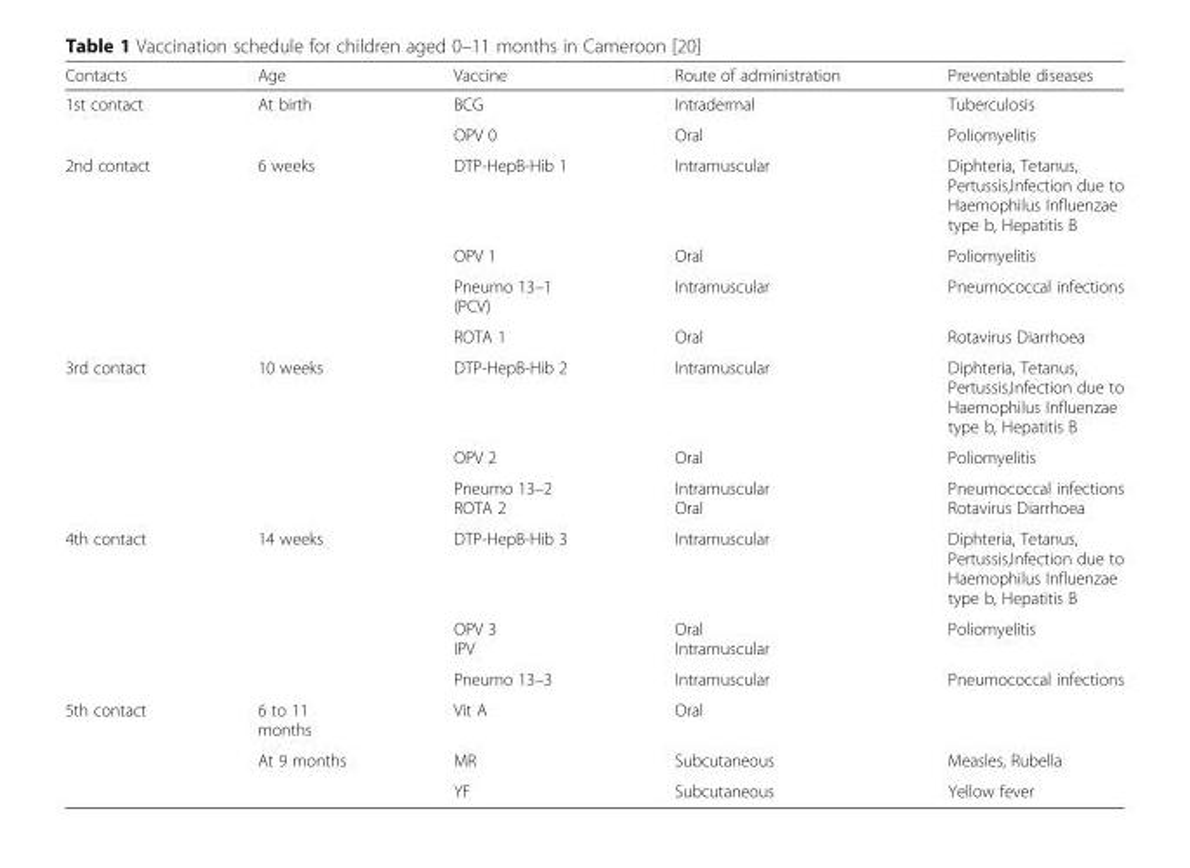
<table><thead><tr><td>Contacts</td><td>Age</td><td>Vaccine</td><td>Route of administration</td><td>Preventable diseases</td></tr></thead><tbody><tr><td rowspan="2">1st contact</td><td rowspan="2">At birth</td><td>BCG</td><td>Intradermal</td><td>Tuberculosis</td></tr><tr><td>OPV 0</td><td>Oral</td><td>Poliomyelitis</td></tr><tr><td rowspan="4">2nd contact</td><td rowspan="4">6 weeks</td><td>DTP-HepB-Hib 1</td><td>Intramuscular</td><td>Diphteria, Tetanus, Pertussis,Infection due to Haemophilus Influenzae type b, Hepatitis B</td></tr><tr><td>OPV 1</td><td>Oral</td><td>Poliomyelitis</td></tr><tr><td>Pneumo 13–1 (PCV)</td><td>Intramuscular</td><td>Pneumococcal infections</td></tr><tr><td>ROTA 1</td><td>Oral</td><td>Rotavirus Diarrhoea</td></tr><tr><td rowspan="3">3rd contact</td><td rowspan="3">10 weeks</td><td>DTP-HepB-Hib 2</td><td>Intramuscular</td><td>Diphteria, Tetanus, Pertussis,Infection due to Haemophilus Influenzae type b, Hepatitis B</td></tr><tr><td>OPV 2</td><td>Oral</td><td>Poliomyelitis</td></tr><tr><td>Pneumo 13–2 ROTA 2</td><td>Intramuscular Oral</td><td>Pneumococcal infections Rotavirus Diarrhoea</td></tr><tr><td rowspan="3">4th contact</td><td rowspan="3">14 weeks</td><td>DTP-HepB-Hib 3</td><td>Intramuscular</td><td>Diphteria, Tetanus, Pertussis,Infection due to Haemophilus Influenzae type b, Hepatitis B</td></tr><tr><td>OPV 3 IPV</td><td>Oral Intramuscular</td><td>Poliomyelitis</td></tr><tr><td>Pneumo 13–3</td><td>Intramuscular</td><td>Pneumococcal infections</td></tr><tr><td rowspan="3">5th contact</td><td>6 to 11 months</td><td>Vit A</td><td>Oral</td><td></td></tr><tr><td rowspan="2">At 9 months</td><td>MR</td><td>Subcutaneous</td><td>Measles, Rubella</td></tr><tr><td>YF</td><td>Subcutaneous</td><td>Yellow fever</td></tr></tbody></table>